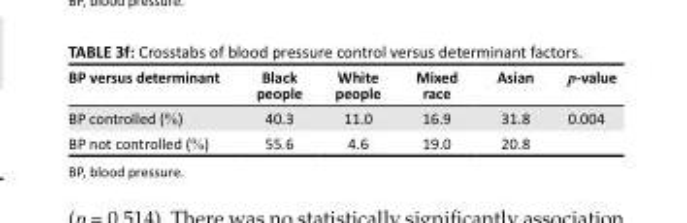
<table><thead><tr><td>BP versus determinant</td><td>Black people</td><td>White people</td><td>Mixed race</td><td>Asian</td><td>p-value</td></tr></thead><tbody><tr><td>BP controlled (%)</td><td>40.3</td><td>11.0</td><td>16.9</td><td>31.8</td><td>0.004</td></tr><tr><td>BP not controlled (%)</td><td>55.6</td><td>4.6</td><td>19.0</td><td>20.8</td><td></td></tr></tbody></table>